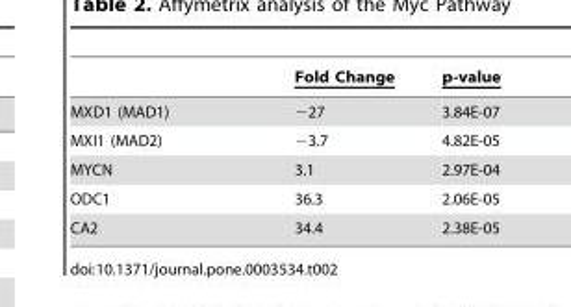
<table><thead><tr><td></td><td>Fold Change</td><td>p-value</td></tr></thead><tbody><tr><td>MXD1 (MAD1)</td><td>−27</td><td>3.84E-07</td></tr><tr><td>MXI1 (MAD2)</td><td>−3.7</td><td>4.82E-05</td></tr><tr><td>MYCN</td><td>3.1</td><td>2.97E-04</td></tr><tr><td>ODC1</td><td>36.3</td><td>2.06E-05</td></tr><tr><td>CA2</td><td>34.4</td><td>2.38E-05</td></tr></tbody></table>